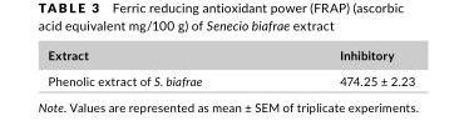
<table><thead><tr><td>Extract</td><td>Inhibitory</td></tr></thead><tbody><tr><td>Phenolic extract of S. biafrae</td><td>474.25 ± 2.23</td></tr></tbody></table>